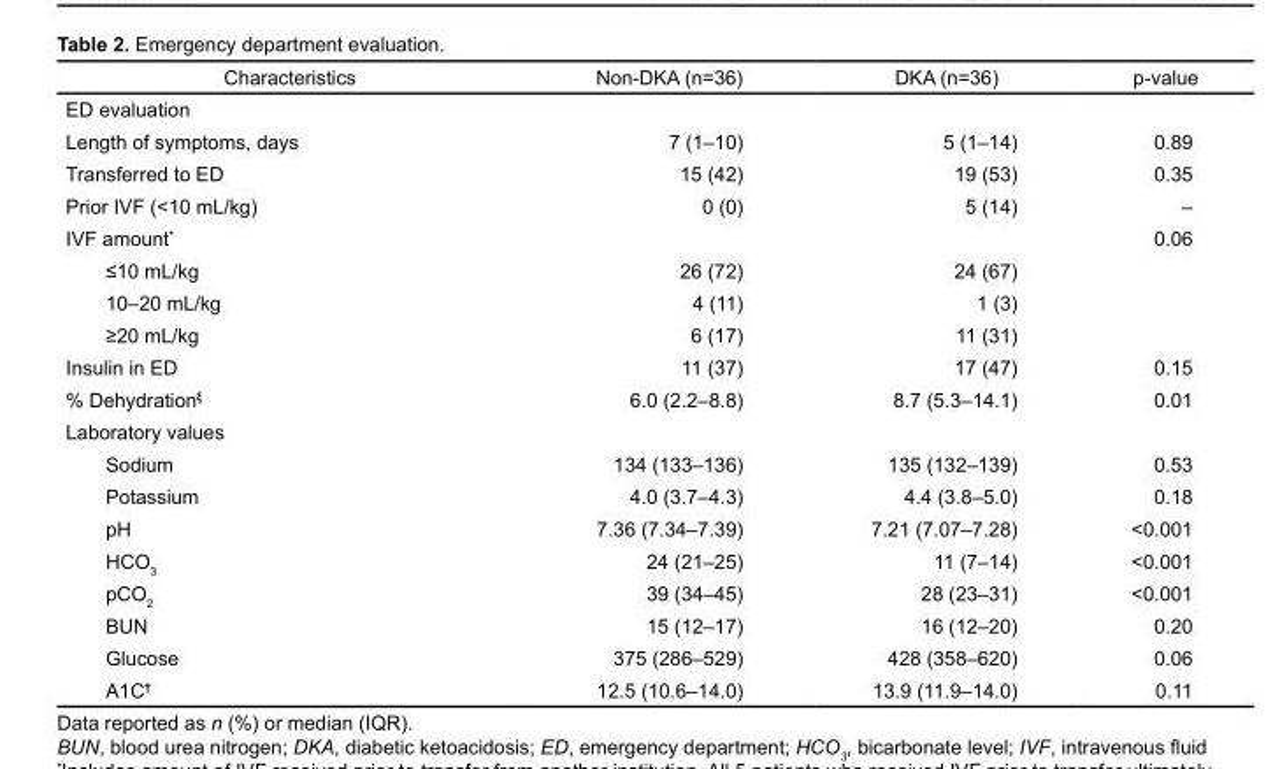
<table><thead><tr><td>Characteristics</td><td>Non-DKA (n=36)</td><td>DKA (n=36)</td><td>p-value</td></tr></thead><tbody><tr><td colspan="4">ED evaluation</td></tr><tr><td>Length of symptoms, days</td><td>7 (1–10)</td><td>5 (1–14)</td><td>0.89</td></tr><tr><td>Transferred to ED</td><td>15 (42)</td><td>19 (53)</td><td>0.35</td></tr><tr><td>Prior IVF (&lt;10 mL/kg)</td><td>0 (0)</td><td>5 (14)</td><td>–</td></tr><tr><td>IVF amount*</td><td></td><td></td><td>0.06</td></tr><tr><td>≤10 mL/kg</td><td>26 (72)</td><td>24 (67)</td><td></td></tr><tr><td>10–20 mL/kg</td><td>4 (11)</td><td>1 (3)</td><td></td></tr><tr><td>≥20 mL/kg</td><td>6 (17)</td><td>11 (31)</td><td></td></tr><tr><td>Insulin in ED</td><td>11 (37)</td><td>17 (47)</td><td>0.15</td></tr><tr><td>% Dehydrationξ</td><td>6.0 (2.2–8.8)</td><td>8.7 (5.3–14.1)</td><td>0.01</td></tr><tr><td colspan="4">Laboratory values</td></tr><tr><td>Sodium</td><td>134 (133–136)</td><td>135 (132–139)</td><td>0.53</td></tr><tr><td>Potassium</td><td>4.0 (3.7–4.3)</td><td>4.4 (3.8–5.0)</td><td>0.18</td></tr><tr><td>pH</td><td>7.36 (7.34–7.39)</td><td>7.21 (7.07–7.28)</td><td>&lt;0.001</td></tr><tr><td>HCO<sub>3</sub></td><td>24 (21–25)</td><td>11 (7–14)</td><td>&lt;0.001</td></tr><tr><td>pCO<sub>2</sub></td><td>39 (34–45)</td><td>28 (23–31)</td><td>&lt;0.001</td></tr><tr><td>BUN</td><td>15 (12–17)</td><td>16 (12–20)</td><td>0.20</td></tr><tr><td>Glucose</td><td>375 (286–529)</td><td>428 (358–620)</td><td>0.06</td></tr><tr><td>A1C†</td><td>12.5 (10.6–14.0)</td><td>13.9 (11.9–14.0)</td><td>0.11</td></tr></tbody></table>